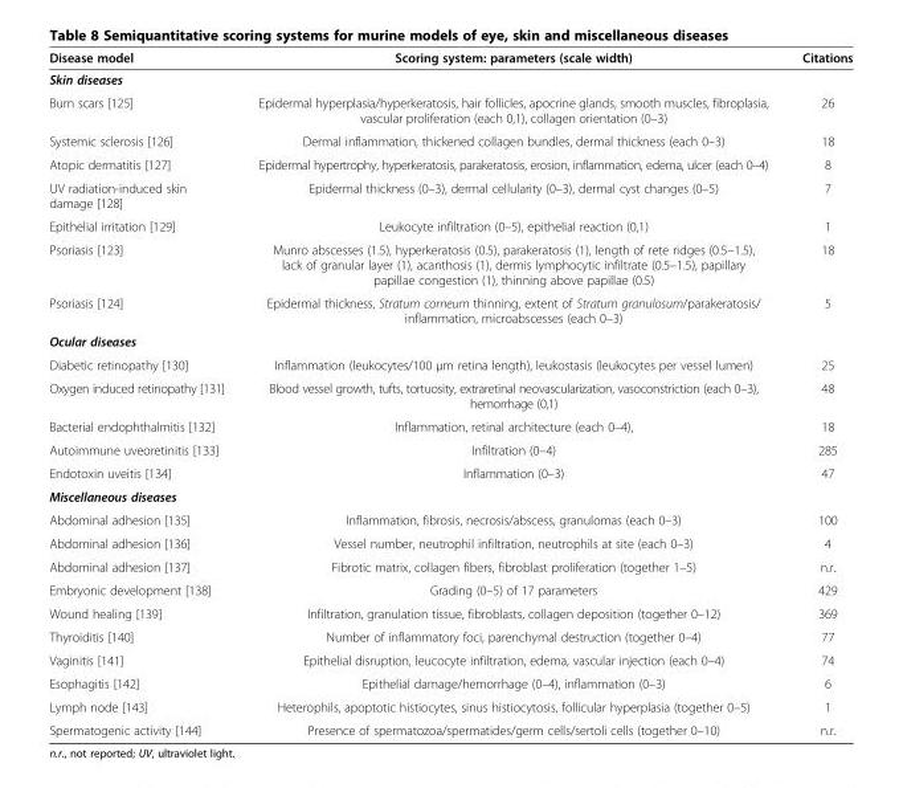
<table><thead><tr><td>Disease model</td><td>Scoring system: parameters (scale width)</td><td>Citations</td></tr></thead><tbody><tr><td colspan="3">Skin diseases</td></tr><tr><td>Burn scars [125]</td><td>Epidermal hyperplasia/hyperkeratosis, hair follicles, apocrine glands, smooth muscles, fibroplasia, vascular proliferation (each 0,1), collagen orientation (0–3)</td><td>26</td></tr><tr><td>Systemic sclerosis [126]</td><td>Dermal inflammation, thickened collagen bundles, dermal thickness (each 0–3)</td><td>18</td></tr><tr><td>Atopic dermatitis [127]</td><td>Epidermal hypertrophy, hyperkeratosis, parakeratosis, erosion, inflammation, edema, ulcer (each 0–4)</td><td>8</td></tr><tr><td>UV radiation-induced skin damage [128]</td><td>Epidermal thickness (0–3), dermal cellularity (0–3), dermal cyst changes (0–5)</td><td>7</td></tr><tr><td>Epithelial irritation [129]</td><td>Leukocyte infiltration (0–5), epithelial reaction (0,1)</td><td>1</td></tr><tr><td>Psoriasis [123]</td><td>Munro abscesses (1.5), hyperkeratosis (0.5), parakeratosis (1), length of rete ridges (0.5–1.5), lack of granular layer (1), acanthosis (1), dermis lymphocytic infiltrate (0.5–1.5), papillary papillae congestion (1), thinning above papillae (0.5)</td><td>18</td></tr><tr><td>Psoriasis [124]</td><td>Epidermal thickness, Stratum corneum thinning, extent of Stratum granulosum/parakeratosis/ inflammation, microabscesses (each 0–3)</td><td>5</td></tr><tr><td colspan="3">Ocular diseases</td></tr><tr><td>Diabetic retinopathy [130]</td><td>Inflammation (leukocytes/100 μm retina length), leukostasis (leukocytes per vessel lumen)</td><td>25</td></tr><tr><td>Oxygen induced retinopathy [131]</td><td>Blood vessel growth, tufts, tortuosity, extraretinal neovascularization, vasoconstriction (each 0–3), hemorrhage (0,1)</td><td>48</td></tr><tr><td>Bacterial endophthalmitis [132]</td><td>Inflammation, retinal architecture (each 0–4),</td><td>18</td></tr><tr><td>Autoimmune uveoretinitis [133]</td><td>Infiltration (0–4)</td><td>285</td></tr><tr><td>Endotoxin uveitis [134]</td><td>Inflammation (0–3)</td><td>47</td></tr><tr><td colspan="3">Miscellaneous diseases</td></tr><tr><td>Abdominal adhesion [135]</td><td>Inflammation, fibrosis, necrosis/abscess, granulomas (each 0–3)</td><td>100</td></tr><tr><td>Abdominal adhesion [136]</td><td>Vessel number, neutrophil infiltration, neutrophils at site (each 0–3)</td><td>4</td></tr><tr><td>Abdominal adhesion [137]</td><td>Fibrotic matrix, collagen fibers, fibroblast proliferation (together 1–5)</td><td>n.r.</td></tr><tr><td>Embryonic development [138]</td><td>Grading (0–5) of 17 parameters</td><td>429</td></tr><tr><td>Wound healing [139]</td><td>Infiltration, granulation tissue, fibroblasts, collagen deposition (together 0–12)</td><td>369</td></tr><tr><td>Thyroiditis [140]</td><td>Number of inflammatory foci, parenchymal destruction (together 0–4)</td><td>77</td></tr><tr><td>Vaginitis [141]</td><td>Epithelial disruption, leucocyte infiltration, edema, vascular injection (each 0–4)</td><td>74</td></tr><tr><td>Esophagitis [142]</td><td>Epithelial damage/hemorrhage (0–4), inflammation (0–3)</td><td>6</td></tr><tr><td>Lymph node [143]</td><td>Heterophils, apoptotic histiocytes, sinus histiocytosis, follicular hyperplasia (together 0–5)</td><td>1</td></tr><tr><td>Spermatogenic activity [144]</td><td>Presence of spermatozoa/spermatides/germ cells/sertoli cells (together 0–10)</td><td>n.r.</td></tr></tbody></table>